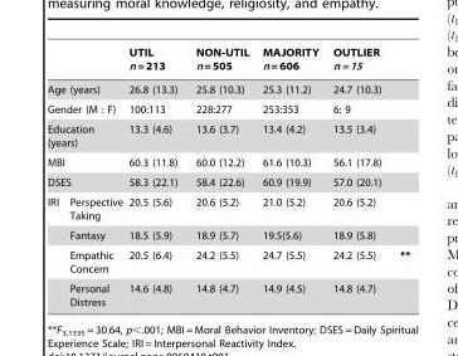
<table><thead><tr><td></td><td></td><td>UTIL n = 213</td><td>NON-UTIL n = 505</td><td>MAJORITY n = 606</td><td>OUTLIER n = 15</td><td></td></tr></thead><tbody><tr><td colspan="2">Age (years)</td><td>26.8 (13.3)</td><td>25.8 (10.3)</td><td>25.3 (11.2)</td><td>24.7 (10.3)</td><td></td></tr><tr><td colspan="2">Gender (M : F)</td><td>100:113</td><td>228:277</td><td>253:353</td><td>6: 9</td><td></td></tr><tr><td colspan="2">Education (years)</td><td>13.3 (4.6)</td><td>13.6 (3.7)</td><td>13.4 (4.2)</td><td>13.5 (3.4)</td><td></td></tr><tr><td colspan="2">MBI</td><td>60.3 (11.8)</td><td>60.0 (12.2)</td><td>61.6 (10.3)</td><td>56.1 (17.8)</td><td></td></tr><tr><td colspan="2">DSES</td><td>58.3 (22.1)</td><td>58.4 (22.6)</td><td>60.9 (19.9)</td><td>57.0 (20.1)</td><td></td></tr><tr><td rowspan="4">IRI</td><td>Perspective Taking</td><td>20.5 (5.6)</td><td>20.6 (5.2)</td><td>21.0 (5.2)</td><td>20.6 (5.2)</td><td></td></tr><tr><td>Fantasy</td><td>18.5 (5.9)</td><td>18.9 (5.7)</td><td>19.5(5.6)</td><td>18.9 (5.8)</td><td></td></tr><tr><td>Empathic Concern</td><td>20.5 (6.4)</td><td>24.2 (5.5)</td><td>24.7 (5.5)</td><td>24.2 (5.5)</td><td>**</td></tr><tr><td>Personal Distress</td><td>14.6 (4.8)</td><td>14.8 (4.7)</td><td>14.9 (4.5)</td><td>14.8 (4.7)</td><td></td></tr></tbody></table>